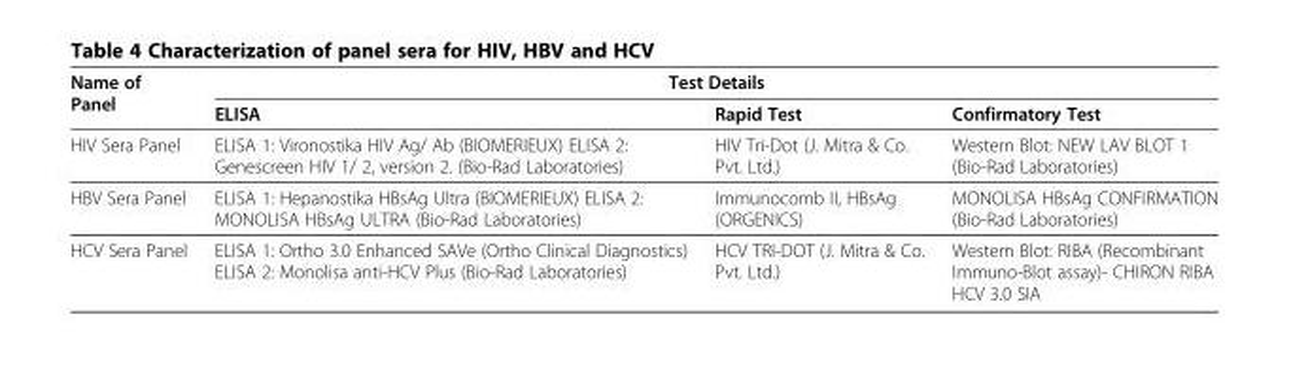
<table><thead><tr><td rowspan="2">Name of Panel</td><td colspan="3">Test Details</td></tr><tr><td>ELISA</td><td>Rapid Test</td><td>Confirmatory Test</td></tr></thead><tbody><tr><td>HIV Sera Panel</td><td>ELISA 1: Vironostika HIV Ag/ Ab (BIOMERIEUX) ELISA 2: Genescreen HIV 1/ 2, version 2. (Bio-Rad Laboratories)</td><td>HIV Tri-Dot (J. Mitra &amp; Co. Pvt. Ltd.)</td><td>Western Blot: NEW LAV BLOT 1 (Bio-Rad Laboratories)</td></tr><tr><td>HBV Sera Panel</td><td>ELISA 1: Hepanostika HBsAg Ultra (BIOMERIEUX) ELISA 2: MONOLISA HBsAg ULTRA (Bio-Rad Laboratories)</td><td>Immunocomb II, HBsAg (ORGENICS)</td><td>MONOLISA HBsAg CONFIRMATION (Bio-Rad Laboratories)</td></tr><tr><td>HCV Sera Panel</td><td>ELISA 1: Ortho 3.0 Enhanced SAVe (Ortho Clinical Diagnostics) ELISA 2: Monolisa anti-HCV Plus (Bio-Rad Laboratories)</td><td>HCV TRI-DOT (J. Mitra &amp; Co. Pvt. Ltd.)</td><td>Western Blot: RIBA (Recombinant Immuno-Blot assay)- CHIRON RIBA HCV 3.0 SIA</td></tr></tbody></table>